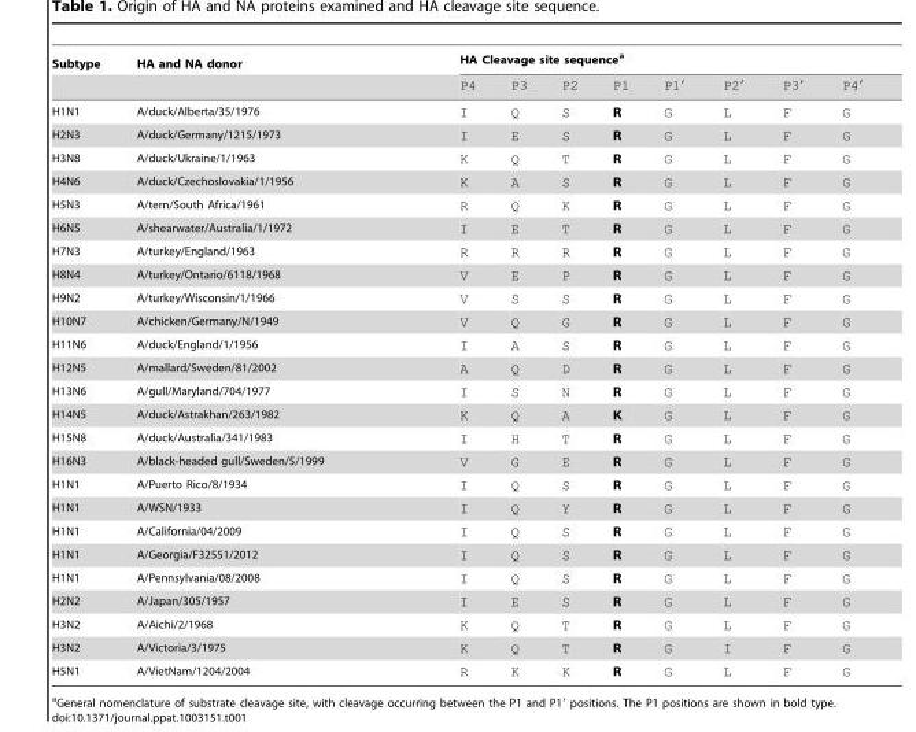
<table><thead><tr><td rowspan="2">Subtype</td><td rowspan="2">HA and NA donor</td><td colspan="8">HA Cleavage site sequence<sup>a</sup></td></tr><tr><td>P4</td><td>P3</td><td>P2</td><td>P1</td><td>P1′</td><td>P2′</td><td>P3′</td><td>P4′</td></tr></thead><tbody><tr><td>H1N1</td><td>A/duck/Alberta/35/1976</td><td>I</td><td>Q</td><td>S</td><td>R</td><td>G</td><td>L</td><td>F</td><td>G</td></tr><tr><td>H2N3</td><td>A/duck/Germany/1215/1973</td><td>I</td><td>E</td><td>S</td><td>R</td><td>G</td><td>L</td><td>F</td><td>G</td></tr><tr><td>H3N8</td><td>A/duck/Ukraine/1/1963</td><td>K</td><td>Q</td><td>T</td><td>R</td><td>G</td><td>L</td><td>F</td><td>G</td></tr><tr><td>H4N6</td><td>A/duck/Czechoslovakia/1/1956</td><td>K</td><td>A</td><td>S</td><td>R</td><td>G</td><td>L</td><td>F</td><td>G</td></tr><tr><td>H5N3</td><td>A/tern/South Africa/1961</td><td>R</td><td>Q</td><td>K</td><td>R</td><td>G</td><td>L</td><td>F</td><td>G</td></tr><tr><td>H6N5</td><td>A/shearwater/Australia/1/1972</td><td>I</td><td>E</td><td>T</td><td>R</td><td>G</td><td>L</td><td>F</td><td>G</td></tr><tr><td>H7N3</td><td>A/turkey/England/1963</td><td>R</td><td>R</td><td>R</td><td>R</td><td>G</td><td>L</td><td>F</td><td>G</td></tr><tr><td>H8N4</td><td>A/turkey/Ontario/6118/1968</td><td>V</td><td>E</td><td>P</td><td>R</td><td>G</td><td>L</td><td>F</td><td>G</td></tr><tr><td>H9N2</td><td>A/turkey/Wisconsin/1/1966</td><td>V</td><td>S</td><td>S</td><td>R</td><td>G</td><td>L</td><td>F</td><td>G</td></tr><tr><td>H10N7</td><td>A/chicken/Germany/N/1949</td><td>V</td><td>Q</td><td>G</td><td>R</td><td>G</td><td>L</td><td>F</td><td>G</td></tr><tr><td>H11N6</td><td>A/duck/England/1/1956</td><td>I</td><td>A</td><td>S</td><td>R</td><td>G</td><td>L</td><td>F</td><td>G</td></tr><tr><td>H12N5</td><td>A/mallard/Sweden/81/2002</td><td>A</td><td>Q</td><td>D</td><td>R</td><td>G</td><td>L</td><td>F</td><td>G</td></tr><tr><td>H13N6</td><td>A/gull/Maryland/704/1977</td><td>I</td><td>S</td><td>N</td><td>R</td><td>G</td><td>L</td><td>F</td><td>G</td></tr><tr><td>H14N5</td><td>A/duck/Astrakhan/263/1982</td><td>K</td><td>Q</td><td>A</td><td>K</td><td>G</td><td>L</td><td>F</td><td>G</td></tr><tr><td>H15N8</td><td>A/duck/Australia/341/1983</td><td>I</td><td>H</td><td>T</td><td>R</td><td>G</td><td>L</td><td>F</td><td>G</td></tr><tr><td>H16N3</td><td>A/black-headed gull/Sweden/5/1999</td><td>V</td><td>G</td><td>E</td><td>R</td><td>G</td><td>L</td><td>F</td><td>G</td></tr><tr><td>H1N1</td><td>A/Puerto Rico/8/1934</td><td>I</td><td>Q</td><td>S</td><td>R</td><td>G</td><td>L</td><td>F</td><td>G</td></tr><tr><td>H1N1</td><td>A/WSN/1933</td><td>I</td><td>Q</td><td>Y</td><td>R</td><td>G</td><td>L</td><td>F</td><td>G</td></tr><tr><td>H1N1</td><td>A/California/04/2009</td><td>I</td><td>Q</td><td>S</td><td>R</td><td>G</td><td>L</td><td>F</td><td>G</td></tr><tr><td>H1N1</td><td>A/Georgia/F32551/2012</td><td>I</td><td>Q</td><td>S</td><td>R</td><td>G</td><td>L</td><td>F</td><td>G</td></tr><tr><td>H1N1</td><td>A/Pennsylvania/08/2008</td><td>I</td><td>Q</td><td>S</td><td>R</td><td>G</td><td>L</td><td>F</td><td>G</td></tr><tr><td>H2N2</td><td>A/Japan/305/1957</td><td>I</td><td>E</td><td>S</td><td>R</td><td>G</td><td>L</td><td>F</td><td>G</td></tr><tr><td>H3N2</td><td>A/Aichi/2/1968</td><td>K</td><td>Q</td><td>T</td><td>R</td><td>G</td><td>L</td><td>F</td><td>G</td></tr><tr><td>H3N2</td><td>A/Victoria/3/1975</td><td>K</td><td>Q</td><td>T</td><td>R</td><td>G</td><td>I</td><td>F</td><td>G</td></tr><tr><td>H5N1</td><td>A/VietNam/1204/2004</td><td>R</td><td>K</td><td>K</td><td>R</td><td>G</td><td>L</td><td>F</td><td>G</td></tr></tbody></table>